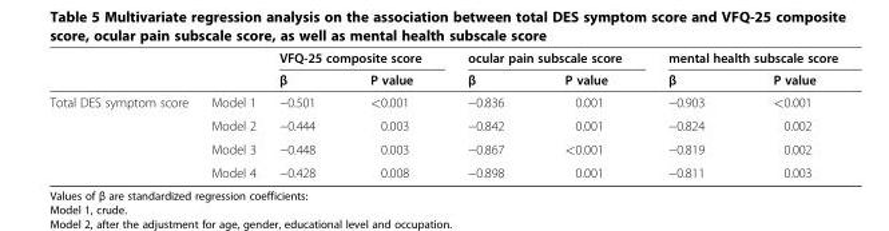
<table><thead><tr><td rowspan="2"></td><td rowspan="2"></td><td colspan="2">VFQ-25 composite score</td><td colspan="2">ocular pain subscale score</td><td colspan="2">mental health subscale score</td></tr><tr><td>β</td><td>P value</td><td>β</td><td>P value</td><td>β</td><td>P value</td></tr></thead><tbody><tr><td rowspan="4">Total DES symptom score</td><td>Model 1</td><td>−0.501</td><td>&lt;0.001</td><td>−0.836</td><td>0.001</td><td>−0.903</td><td>&lt;0.001</td></tr><tr><td>Model 2</td><td>−0.444</td><td>0.003</td><td>−0.842</td><td>0.001</td><td>−0.824</td><td>0.002</td></tr><tr><td>Model 3</td><td>−0.448</td><td>0.003</td><td>−0.867</td><td>&lt;0.001</td><td>−0.819</td><td>0.002</td></tr><tr><td>Model 4</td><td>−0.428</td><td>0.008</td><td>−0.898</td><td>0.001</td><td>−0.811</td><td>0.003</td></tr></tbody></table>